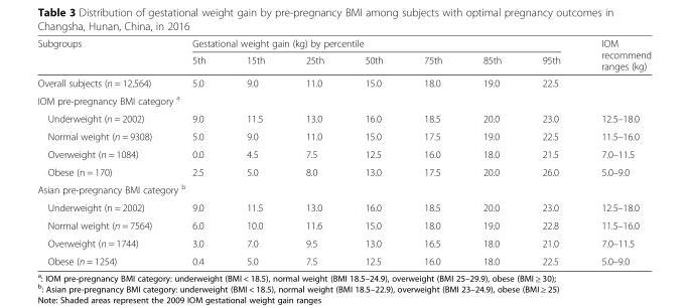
<table><thead><tr><td rowspan="2">Subgroups</td><td colspan="7">Gestational weight gain (kg) by percentile</td><td rowspan="2">IOM recommend ranges (kg)</td></tr><tr><td>5th</td><td>15th</td><td>25th</td><td>50th</td><td>75th</td><td>85th</td><td>95th</td></tr></thead><tbody><tr><td>Overall subjects (n = 12,564)</td><td>5.0</td><td>9.0</td><td>11.0</td><td>15.0</td><td>18.0</td><td>19.0</td><td>22.5</td><td></td></tr><tr><td colspan="9">IOM pre-pregnancy BMI category <sup>a</sup></td></tr><tr><td>Underweight (n = 2002)</td><td>9.0</td><td>11.5</td><td>13.0</td><td>16.0</td><td>18.5</td><td>20.0</td><td>23.0</td><td>12.5–18.0</td></tr><tr><td>Normal weight (n = 9308)</td><td>5.0</td><td>9.0</td><td>11.0</td><td>15.0</td><td>17.5</td><td>19.0</td><td>22.5</td><td>11.5–16.0</td></tr><tr><td>Overweight (n = 1084)</td><td>0.0</td><td>4.5</td><td>7.5</td><td>12.5</td><td>16.0</td><td>18.0</td><td>21.5</td><td>7.0–11.5</td></tr><tr><td>Obese (n = 170)</td><td>2.5</td><td>5.0</td><td>8.0</td><td>13.0</td><td>17.5</td><td>20.0</td><td>26.0</td><td>5.0–9.0</td></tr><tr><td colspan="9">Asian pre-pregnancy BMI category <sup>b</sup></td></tr><tr><td>Underweight (n = 2002)</td><td>9.0</td><td>11.5</td><td>13.0</td><td>16.0</td><td>18.5</td><td>20.0</td><td>23.0</td><td>12.5–18.0</td></tr><tr><td>Normal weight (n = 7564)</td><td>6.0</td><td>10.0</td><td>11.6</td><td>15.0</td><td>18.0</td><td>19.0</td><td>22.8</td><td>11.5–16.0</td></tr><tr><td>Overweight (n = 1744)</td><td>3.0</td><td>7.0</td><td>9.5</td><td>13.0</td><td>16.5</td><td>18.0</td><td>21.0</td><td>7.0–11.5</td></tr><tr><td>Obese (n = 1254)</td><td>0.4</td><td>5.0</td><td>7.5</td><td>12.5</td><td>16.0</td><td>18.0</td><td>22.5</td><td>5.0–9.0</td></tr></tbody></table>